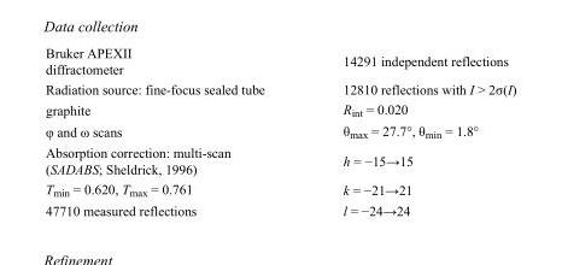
<table><tbody><tr><td>Bruker APEXII diffractometer</td><td>14291 independent reflections</td></tr><tr><td>Radiation source: fine-focus sealed tube</td><td>12810 reflections with I &gt; 2σ(I)</td></tr><tr><td>graphite</td><td>R<sub>int</sub> = 0.020</td></tr><tr><td>φ and ω scans</td><td>θ<sub>max</sub> = 27.7°, θ<sub>min</sub> = 1.8°</td></tr><tr><td>Absorption correction: multi-scan (SADABS; Sheldrick, 1996)</td><td>h = −15→15</td></tr><tr><td>T<sub>min</sub> = 0.620, T<sub>max</sub> = 0.761</td><td>k = −21→21</td></tr><tr><td>47710 measured reflections</td><td>l = −24→24</td></tr></tbody></table>